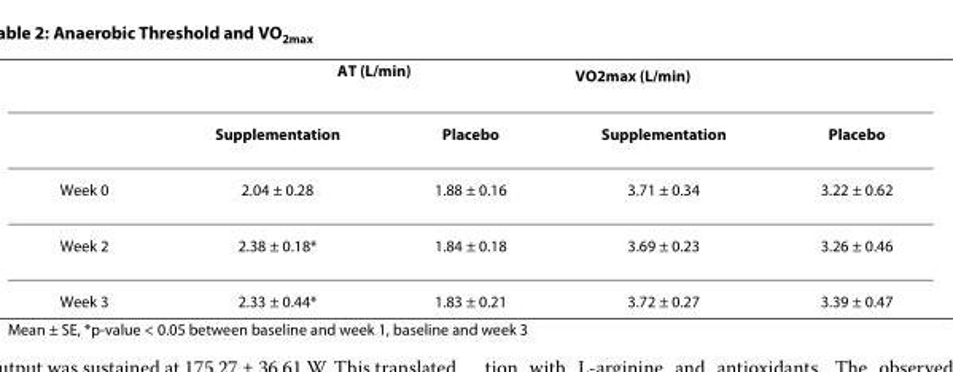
<table><thead><tr><td rowspan="2"></td><td colspan="2">AT (L/min)</td><td colspan="2">VO<sub>2max</sub> (L/min)</td></tr><tr><td>Supplementation</td><td>Placebo</td><td>Supplementation</td><td>Placebo</td></tr></thead><tbody><tr><td>Week 0</td><td>2.04 ± 0.28</td><td>1.88 ± 0.16</td><td>3.71 ± 0.34</td><td>3.22 ± 0.62</td></tr><tr><td>Week 2</td><td>2.38 ± 0.18*</td><td>1.84 ± 0.18</td><td>3.69 ± 0.23</td><td>3.26 ± 0.46</td></tr><tr><td>Week 3</td><td>2.33 ± 0.44*</td><td>1.83 ± 0.21</td><td>3.72 ± 0.27</td><td>3.39 ± 0.47</td></tr></tbody></table>